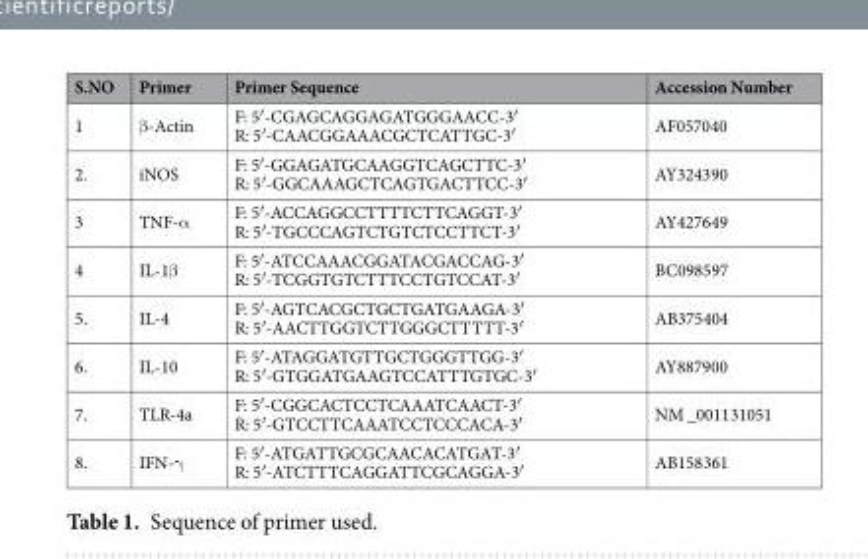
<table><thead><tr><td>S.NO</td><td>Primer</td><td>Primer Sequence</td><td>Accession Number</td></tr></thead><tbody><tr><td>1</td><td>β-Actin</td><td>F: 5′-CGAGCAGGAGATGGGAACC-3′ R: 5′-CAACGGAAACGCTCATTGC-3′</td><td>AF057040</td></tr><tr><td>2.</td><td>iNOS</td><td>F: 5′-GGAGATGCAAGGTCAGCTTC-3′ R: 5′-GGCAAAGCTCAGTGACTTCC-3′</td><td>AY324390</td></tr><tr><td>3</td><td>TNF-α</td><td>F: 5′-ACCAGGCCTTTTCTTCAGGT-3′ R: 5′-TGCCCAGTCTGTCTCCTTCT-3′</td><td>AY427649</td></tr><tr><td>4</td><td>IL-1β</td><td>F: 5′-ATCCAAACGGATACGACCAG-3′ R: 5′-TCGGTGTCTTTCCTGTCCAT-3′</td><td>BC098597</td></tr><tr><td>5.</td><td>IL-4</td><td>F: 5′-AGTCACGCTGCTGATGAAGA-3′ R: 5′-AACTTGGTCTTGGGCTTTTT-3′</td><td>AB375404</td></tr><tr><td>6.</td><td>IL-10</td><td>F: 5′-ATAGGATGTTGCTGGGTTGG-3′ R: 5′-GTGGATGAAGTCCATTTGTGC-3′</td><td>AY887900</td></tr><tr><td>7.</td><td>TLR-4a</td><td>F: 5′-CGGCACTCCTCAAATCAACT-3′ R: 5′-GTCCTTCAAATCCTCCCACA-3′</td><td>NM _001131051</td></tr><tr><td>8.</td><td>IFN-γ</td><td>F: 5′-ATGATTGCGCAACACATGAT-3′ R: 5′-ATCTTTCAGGATTCGCAGGA-3′</td><td>AB158361</td></tr></tbody></table>